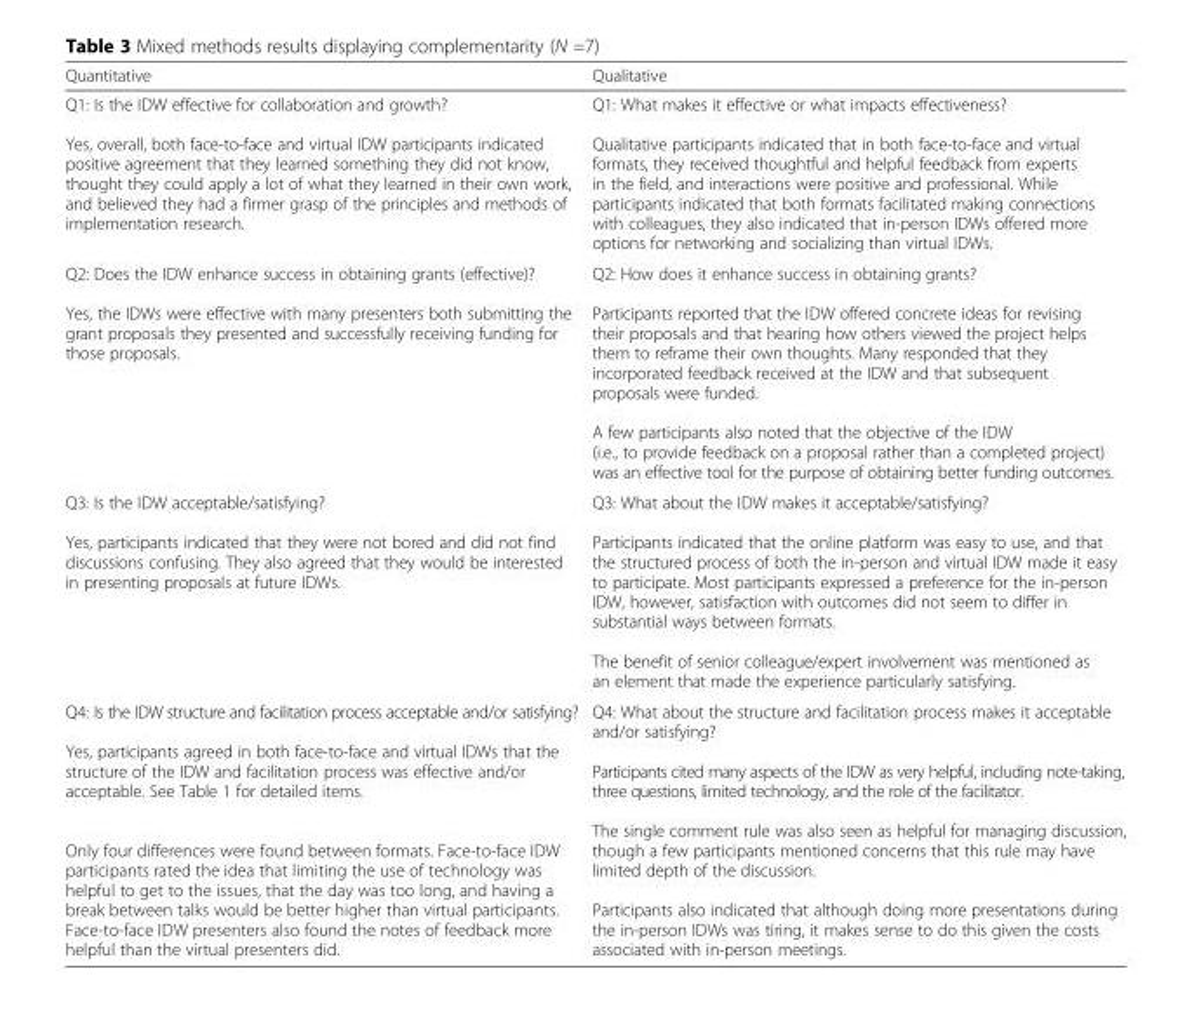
<table><thead><tr><td>Quantitative</td><td>Qualitative</td></tr></thead><tbody><tr><td>Q1: Is the IDW effective for collaboration and growth? Yes, overall, both face-to-face and virtual IDW participants indicated positive agreement that they learned something they did not know, thought they could apply a lot of what they learned in their own work, and believed they had a firmer grasp of the principles and methods of implementation research.</td><td>Q1: What makes it effective or what impacts effectiveness? Qualitative participants indicated that in both face-to-face and virtual formats, they received thoughtful and helpful feedback from experts in the field, and interactions were positive and professional. While participants indicated that both formats facilitated making connections with colleagues, they also indicated that in-person IDWs offered more options for networking and socializing than virtual IDWs.</td></tr><tr><td>Q2: Does the IDW enhance success in obtaining grants (effective)? Yes, the IDWs were effective with many presenters both submitting the grant proposals they presented and successfully receiving funding for those proposals.</td><td>Q2: How does it enhance success in obtaining grants? Participants reported that the IDW offered concrete ideas for revising their proposals and that hearing how others viewed the project helps them to reframe their own thoughts. Many responded that they incorporated feedback received at the IDW and that subsequent proposals were funded. A few participants also noted that the objective of the IDW (i.e., to provide feedback on a proposal rather than a completed project) was an effective tool for the purpose of obtaining better funding outcomes.</td></tr><tr><td>Q3: Is the IDW acceptable/satisfying? Yes, participants indicated that they were not bored and did not find discussions confusing. They also agreed that they would be interested in presenting proposals at future IDWs.</td><td>Q3: What about the IDW makes it acceptable/satisfying? Participants indicated that the online platform was easy to use, and that the structured process of both the in-person and virtual IDW made it easy to participate. Most participants expressed a preference for the in-person IDW, however, satisfaction with outcomes did not seem to differ in substantial ways between formats. The benefit of senior colleague/expert involvement was mentioned as an element that made the experience particularly satisfying.</td></tr><tr><td>Q4: Is the IDW structure and facilitation process acceptable and/or satisfying? Yes, participants agreed in both face-to-face and virtual IDWs that the structure of the IDW and facilitation process was effective and/or acceptable. See Table 1 for detailed items. Only four differences were found between formats. Face-to-face IDW participants rated the idea that limiting the use of technology was helpful to get to the issues, that the day was too long, and having a break between talks would be better higher than virtual participants. Face-to-face IDW presenters also found the notes of feedback more helpful than the virtual presenters did.</td><td>Q4: What about the structure and facilitation process makes it acceptable and/or satisfying? Participants cited many aspects of the IDW as very helpful, including note-taking, three questions, limited technology, and the role of the facilitator. The single comment rule was also seen as helpful for managing discussion, though a few participants mentioned concerns that this rule may have limited depth of the discussion. Participants also indicated that although doing more presentations during the in-person IDWs was tiring, it makes sense to do this given the costs associated with in-person meetings.</td></tr></tbody></table>